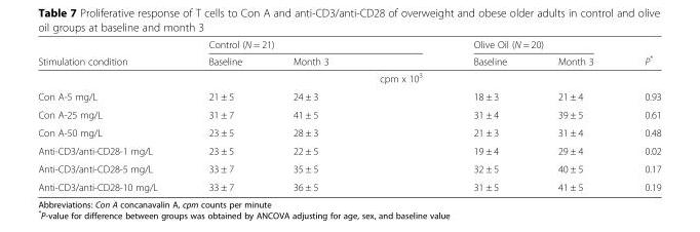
<table><thead><tr><td rowspan="2">Stimulation condition</td><td colspan="3">Control (N = 21)</td><td colspan="2">Olive Oil (N = 20)</td><td rowspan="2">P*</td></tr><tr><td>Baseline</td><td>Month 3</td><td></td><td>Baseline</td><td>Month 3</td></tr></thead><tbody><tr><td></td><td></td><td></td><td>cpm x 10<sup>3</sup></td><td></td><td></td><td></td></tr><tr><td>Con A-5 mg/L</td><td>21 ± 5</td><td>24 ± 3</td><td></td><td>18 ± 3</td><td>21 ± 4</td><td>0.93</td></tr><tr><td>Con A-25 mg/L</td><td>31 ± 7</td><td>41 ± 5</td><td></td><td>31 ± 4</td><td>39 ± 5</td><td>0.61</td></tr><tr><td>Con A-50 mg/L</td><td>23 ± 5</td><td>28 ± 3</td><td></td><td>21 ± 3</td><td>31 ± 4</td><td>0.48</td></tr><tr><td>Anti-CD3/anti-CD28-1 mg/L</td><td>23 ± 5</td><td>22 ± 5</td><td></td><td>19 ± 4</td><td>29 ± 4</td><td>0.02</td></tr><tr><td>Anti-CD3/anti-CD28-5 mg/L</td><td>33 ± 7</td><td>35 ± 5</td><td></td><td>32 ± 5</td><td>40 ± 5</td><td>0.17</td></tr><tr><td>Anti-CD3/anti-CD28-10 mg/L</td><td>33 ± 7</td><td>36 ± 5</td><td></td><td>31 ± 5</td><td>41 ± 5</td><td>0.19</td></tr></tbody></table>